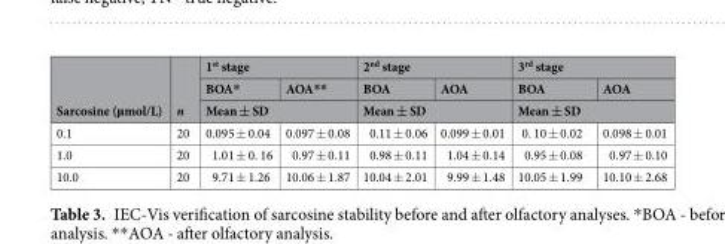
<table><thead><tr><td rowspan="3">Sarcosine (µmol/L)</td><td rowspan="3">n</td><td colspan="2">1<sup>st</sup> stage</td><td colspan="2">2<sup>nd</sup> stage</td><td colspan="2">3<sup>rd</sup> stage</td></tr><tr><td>BOA*</td><td>AOA**</td><td>BOA</td><td>AOA</td><td>BOA</td><td>AOA</td></tr><tr><td colspan="2">Mean ± SD</td><td colspan="2">Mean ± SD</td><td colspan="2">Mean ± SD</td></tr></thead><tbody><tr><td>0.1</td><td>20</td><td>0.095 ± 0.04</td><td>0.097 ± 0.08</td><td>0.11 ± 0.06</td><td>0.099 ± 0.01</td><td>0. 10 ± 0.02</td><td>0.098 ± 0.01</td></tr><tr><td>1.0</td><td>20</td><td>1.01 ± 0. 16</td><td>0.97 ± 0.11</td><td>0.98 ± 0.11</td><td>1.04 ± 0.14</td><td>0.95 ± 0.08</td><td>0.97 ± 0.10</td></tr><tr><td>10.0</td><td>20</td><td>9.71 ± 1.26</td><td>10.06 ± 1.87</td><td>10.04 ± 2.01</td><td>9.99 ± 1.48</td><td>10.05 ± 1.99</td><td>10.10 ± 2.68</td></tr></tbody></table>